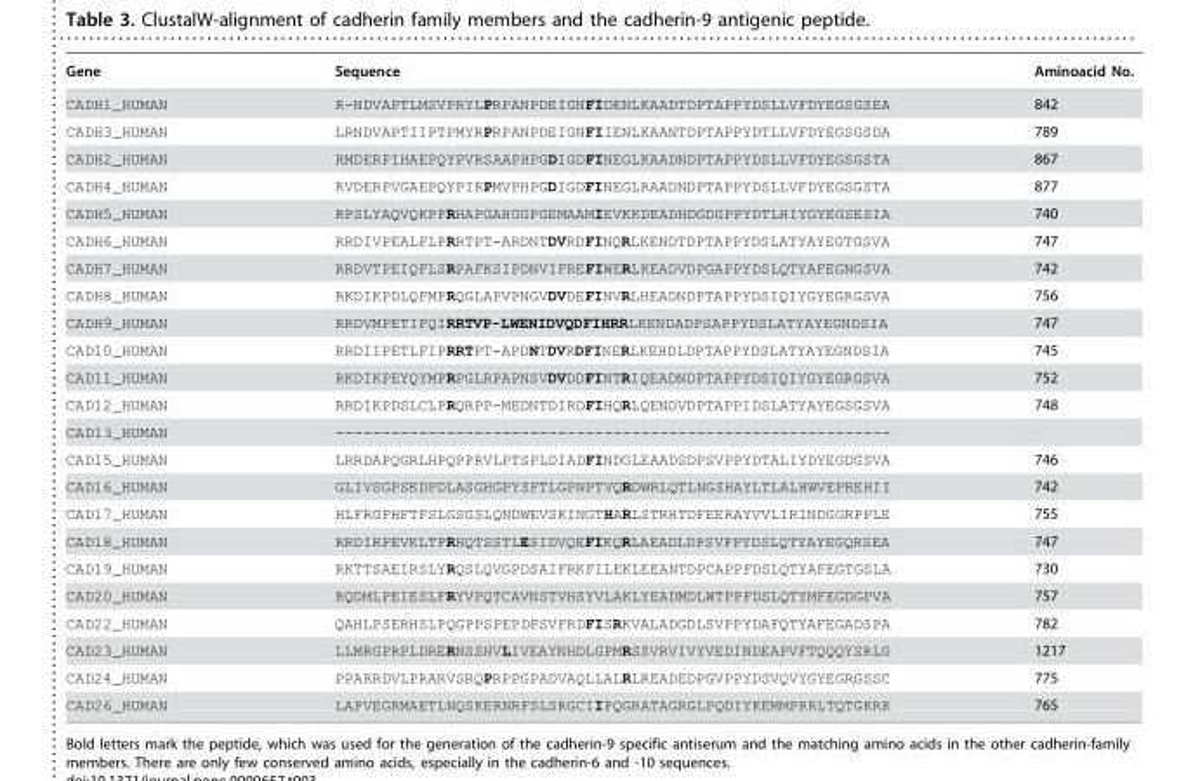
<table><thead><tr><td>Gene</td><td>Sequence</td><td>Aminoacid No.</td></tr></thead><tbody><tr><td>CADH1_HUMAN</td><td>R-NDVAPTLMSVPRYLPRPANPDEIGNFIDENLKAADTDPTAPPYDSLLVFDYEGSGSEA</td><td>842</td></tr><tr><td>CADH3_HUMAN</td><td>LRNDVAPTIIPTPMYRPRPANPDEIGNFIIENLKAANTDPTAPPYDTLLVFDYEGSGSDA</td><td>789</td></tr><tr><td>CADH2_HUMAN</td><td>RMDERPIHAEPQYPVRSAAPHPGDIGDFINEGLKAADNDPTAPPYDSLLVFDYEGSGSTA</td><td>867</td></tr><tr><td>CADH4_HUMAN</td><td>RVDERPVGAEPQYPIRPMVPHPGDIGDFINEGLRAADNDPTAPPYDSLLVFDYEGSGSTA</td><td>877</td></tr><tr><td>CADH5_HUMAN</td><td>RPSLYAQVQKPPRHAPGAHGGPGEMAAMIEVKKDEADHDGDGPPYDTLHIYGYEGSESIA</td><td>740</td></tr><tr><td>CADH6_HUMAN</td><td>RRDIVPEALFLPRRTPT-ARDNTDVRDFINQRLKENDTDPTAPPYDSLATYAYEGTGSVA</td><td>747</td></tr><tr><td>CADH7_HUMAN</td><td>RRDVTPEIQFLSRPAFKSIPDNVIFREFIWERLKEADVDPGAPPYDSLQTYAFEGNGSVA</td><td>742</td></tr><tr><td>CADH8_HUMAN</td><td>RKDIKPDLQFMPRQGLAPVPNGVDVDEFINVRLHEADNDPTAPPYDSIQIYGYEGRGSVA</td><td>756</td></tr><tr><td>CADH9_HUMAN</td><td>RRDVMPETIFQIRRTVP-LWENIDVQDFIHRRLKENDADPSAPPYDSLATYAYEGNDSIA</td><td>747</td></tr><tr><td>CAD10_HUMAN</td><td>RRDIIPETLFIPRRTPT-APDNTDVRDFINERLKEHDLDPTAPPYDSLATYAYEGNDSIA</td><td>745</td></tr><tr><td>CAD11_HUMAN</td><td>RKDIKPEYQYMPRPGLRPAPNSVDVDDFINTRIQEADNDPTAPPYDSIQIYGYEGRGSVA</td><td>752</td></tr><tr><td>CAD12_HUMAN</td><td>RRDIKPDSLCLPRQRPP-MEDNTDIRDFIHQRLQENDVDPTAPPIDSLATYAYEGSGSVA</td><td>748</td></tr><tr><td>CAD13_HUMAN</td><td>------------------------------------------------------------</td><td></td></tr><tr><td>CAD15_HUMAN</td><td>LRRDAPQGRLHPQPPRVLPTSPLDIADFINDGLEAADSDPSVPPYDTALIYDYEGDGSVA</td><td>746</td></tr><tr><td>CAD16_HUMAN</td><td>GLIVSGPSKDPDLASGHGPYSFTLGPNPTVQRDWRLQTLNGSHAYLTLALHWVEPREHII</td><td>742</td></tr><tr><td>CAD17_HUMAN</td><td>HLFRGPHFTFSLGSGSLQNDWEVSKINGTHARLSTRHTDFEERAYVVLIRINDGGRPPLE</td><td>755</td></tr><tr><td>CAD18_HUMAN</td><td>RRDIRPEVKLTPRHQTSSTLESIDVQEFIKQRLAEADLDPSVPPYDSLQTYAYEGQRSEA</td><td>747</td></tr><tr><td>CAD19_HUMAN</td><td>RKTTSAEIRSLYRQSLQVGPDSAIFRKFILEKLEEANTDPCAPPFDSLQTYAFEGTGSLA</td><td>730</td></tr><tr><td>CAD20_HUMAN</td><td>RQDMLPEIESLFRYVPQTCAVNSTVHSYVLAKLYEADMDLWTPPFDSLQTYMFEGDGPVA</td><td>757</td></tr><tr><td>CAD22_HUMAN</td><td>QAHLPSERHSLPQGPPSPEPDFSVFRDFISRKVALADGDLSVPPYDAFQTYAFEGADSPA</td><td>782</td></tr><tr><td>CAD23_HUMAN</td><td>LLMRGPRPLDRERNSSHVLIVEAYNHDLGPMRSSVRVIVYVEDINDEAPVFTQQQYSRLG</td><td>1217</td></tr><tr><td>CAD24_HUMAN</td><td>PPARRDVLPRARVSRQPRPPGPADVAQLLALRLREADEDPGVPPYDSVQVYGYEGRGSSC</td><td>775</td></tr><tr><td>CAD26_HUMAN</td><td>LAPVEGRMAETLNQSKERNRFSLSRGCIIPQGRATAGRGLPQDIYKEMMPRRLTQTGKRK</td><td>765</td></tr></tbody></table>